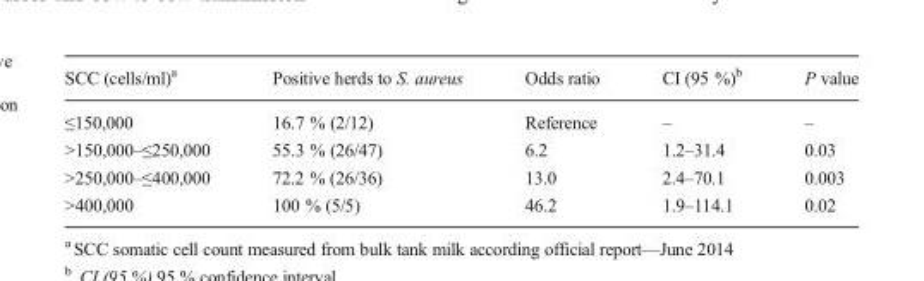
<table><thead><tr><td>SCC (cells/ml)<sup>a</sup></td><td>Positive herds to S. aureus</td><td>Odds ratio</td><td>CI (95 %)<sup>b</sup></td><td>P value</td></tr></thead><tbody><tr><td>≤150,000</td><td>16.7 % (2/12)</td><td>Reference</td><td>–</td><td>–</td></tr><tr><td>&gt;150,000–≤250,000</td><td>55.3 % (26/47)</td><td>6.2</td><td>1.2–31.4</td><td>0.03</td></tr><tr><td>&gt;250,000–≤400,000</td><td>72.2 % (26/36)</td><td>13.0</td><td>2.4–70.1</td><td>0.003</td></tr><tr><td>&gt;400,000</td><td>100 % (5/5)</td><td>46.2</td><td>1.9–114.1</td><td>0.02</td></tr></tbody></table>